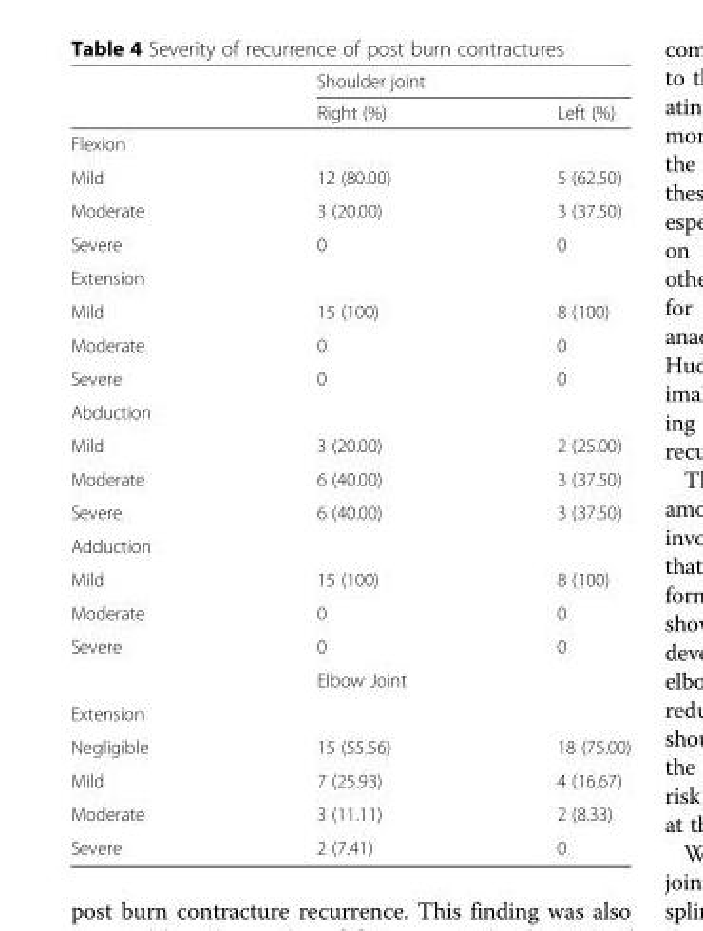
<table><thead><tr><td rowspan="2"></td><td colspan="2">Shoulder joint</td></tr><tr><td>Right (%)</td><td>Left (%)</td></tr></thead><tbody><tr><td colspan="3">Flexion</td></tr><tr><td>Mild</td><td>12 (80.00)</td><td>5 (62.50)</td></tr><tr><td>Moderate</td><td>3 (20.00)</td><td>3 (37.50)</td></tr><tr><td>Severe</td><td>0</td><td>0</td></tr><tr><td colspan="3">Extension</td></tr><tr><td>Mild</td><td>15 (100)</td><td>8 (100)</td></tr><tr><td>Moderate</td><td>0</td><td>0</td></tr><tr><td>Severe</td><td>0</td><td>0</td></tr><tr><td colspan="3">Abduction</td></tr><tr><td>Mild</td><td>3 (20.00)</td><td>2 (25.00)</td></tr><tr><td>Moderate</td><td>6 (40.00)</td><td>3 (37.50)</td></tr><tr><td>Severe</td><td>6 (40.00)</td><td>3 (37.50)</td></tr><tr><td colspan="3">Adduction</td></tr><tr><td>Mild</td><td>15 (100)</td><td>8 (100)</td></tr><tr><td>Moderate</td><td>0</td><td>0</td></tr><tr><td rowspan="2">Severe</td><td>0</td><td>0</td></tr><tr><td colspan="2">Elbow Joint</td></tr><tr><td colspan="3">Extension</td></tr><tr><td>Negligible</td><td>15 (55.56)</td><td>18 (75.00)</td></tr><tr><td>Mild</td><td>7 (25.93)</td><td>4 (16.67)</td></tr><tr><td>Moderate</td><td>3 (11.11)</td><td>2 (8.33)</td></tr><tr><td>Severe</td><td>2 (7.41)</td><td>0</td></tr></tbody></table>